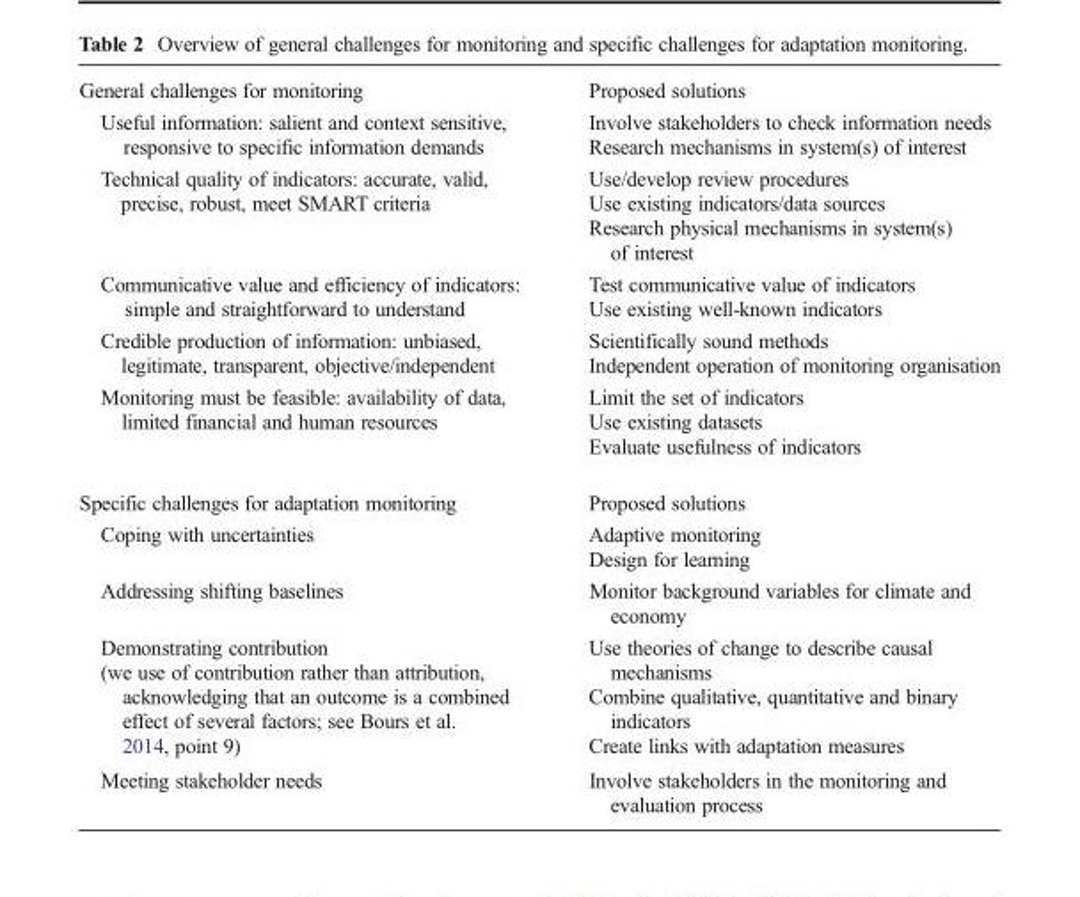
<table><tbody><tr><td>General challenges for monitoring</td><td>Proposed solutions</td></tr><tr><td>Useful information: salient and context sensitive, responsive to specific information demands</td><td>Involve stakeholders to check information needs Research mechanisms in system(s) of interest</td></tr><tr><td>Technical quality of indicators: accurate, valid, precise, robust, meet SMART criteria</td><td>Use/develop review procedures Use existing indicators/data sources Research physical mechanisms in system(s) of interest</td></tr><tr><td>Communicative value and efficiency of indicators: simple and straightforward to understand</td><td>Test communicative value of indicators Use existing well-known indicators</td></tr><tr><td>Credible production of information: unbiased, legitimate, transparent, objective/independent</td><td>Scientifically sound methods Independent operation of monitoring organisation</td></tr><tr><td>Monitoring must be feasible: availability of data, limited financial and human resources</td><td>Limit the set of indicators Use existing datasets Evaluate usefulness of indicators</td></tr><tr><td>Specific challenges for adaptation monitoring</td><td>Proposed solutions</td></tr><tr><td>Coping with uncertainties</td><td>Adaptive monitoring Design for learning</td></tr><tr><td>Addressing shifting baselines</td><td>Monitor background variables for climate and economy</td></tr><tr><td>Demonstrating contribution (we use of contribution rather than attribution, acknowledging that an outcome is a combined effect of several factors; see Bours et al. 2014, point 9)</td><td>Use theories of change to describe causal mechanisms Combine qualitative, quantitative and binary indicators Create links with adaptation measures</td></tr><tr><td>Meeting stakeholder needs</td><td>Involve stakeholders in the monitoring and evaluation process</td></tr></tbody></table>